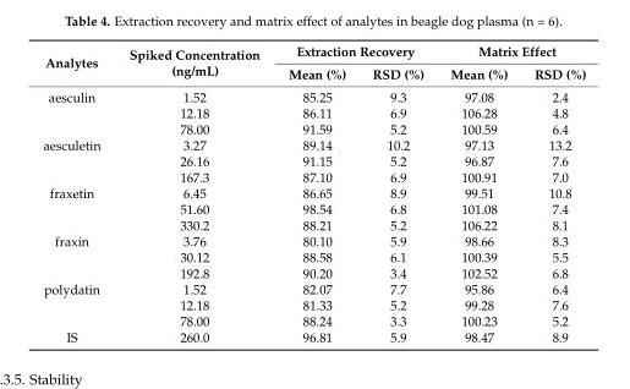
<table><thead><tr><td rowspan="2">Analytes</td><td rowspan="2">Spiked Concentration (ng/mL)</td><td colspan="2">Extraction Recovery</td><td colspan="2">Matrix Effect</td></tr><tr><td>Mean (%)</td><td>RSD (%)</td><td>Mean (%)</td><td>RSD (%)</td></tr></thead><tbody><tr><td rowspan="3">aesculin</td><td>1.52</td><td>85.25</td><td>9.3</td><td>97.08</td><td>2.4</td></tr><tr><td>12.18</td><td>86.11</td><td>6.9</td><td>106.28</td><td>4.8</td></tr><tr><td>78.00</td><td>91.59</td><td>5.2</td><td>100.59</td><td>6.4</td></tr><tr><td rowspan="3">aesculetin</td><td>3.27</td><td>89.14</td><td>10.2</td><td>97.13</td><td>13.2</td></tr><tr><td>26.16</td><td>91.15</td><td>5.2</td><td>96.87</td><td>7.6</td></tr><tr><td>167.3</td><td>87.10</td><td>6.9</td><td>100.91</td><td>7.0</td></tr><tr><td rowspan="3">fraxetin</td><td>6.45</td><td>86.65</td><td>8.9</td><td>99.51</td><td>10.8</td></tr><tr><td>51.60</td><td>98.54</td><td>6.8</td><td>101.08</td><td>7.4</td></tr><tr><td>330.2</td><td>88.21</td><td>5.2</td><td>106.22</td><td>8.1</td></tr><tr><td rowspan="3">fraxin</td><td>3.76</td><td>80.10</td><td>5.9</td><td>98.66</td><td>8.3</td></tr><tr><td>30.12</td><td>88.58</td><td>6.1</td><td>100.39</td><td>5.5</td></tr><tr><td>192.8</td><td>90.20</td><td>3.4</td><td>102.52</td><td>6.8</td></tr><tr><td rowspan="3">polydatin</td><td>1.52</td><td>82.07</td><td>7.7</td><td>95.86</td><td>6.4</td></tr><tr><td>12.18</td><td>81.33</td><td>5.2</td><td>99.28</td><td>7.6</td></tr><tr><td>78.00</td><td>88.24</td><td>3.3</td><td>100.23</td><td>5.2</td></tr><tr><td>IS</td><td>260.0</td><td>96.81</td><td>5.9</td><td>98.47</td><td>8.9</td></tr></tbody></table>